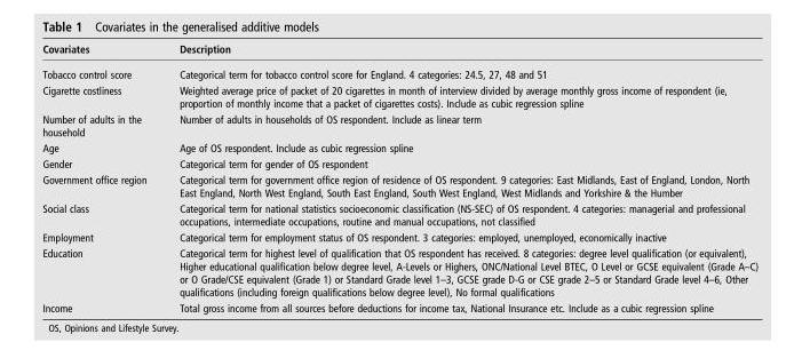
<table><thead><tr><td>Covariates</td><td>Description</td></tr></thead><tbody><tr><td>Tobacco control score</td><td>Categorical term for tobacco control score for England. 4 categories: 24.5, 27, 48 and 51</td></tr><tr><td>Cigarette costliness</td><td>Weighted average price of packet of 20 cigarettes in month of interview divided by average monthly gross income of respondent (ie, proportion of monthly income that a packet of cigarettes costs). Include as cubic regression spline</td></tr><tr><td>Number of adults in the household</td><td>Number of adults in households of OS respondent. Include as linear term</td></tr><tr><td>Age</td><td>Age of OS respondent. Include as cubic regression spline</td></tr><tr><td>Gender</td><td>Categorical term for gender of OS respondent</td></tr><tr><td>Government office region</td><td>Categorical term for government office region of residence of OS respondent. 9 categories: East Midlands, East of England, London, North East England, North West England, South East England, South West England, West Midlands and Yorkshire &amp; the Humber</td></tr><tr><td>Social class</td><td>Categorical term for national statistics socioeconomic classification (NS-SEC) of OS respondent. 4 categories: managerial and professional occupations, intermediate occupations, routine and manual occupations, not classified</td></tr><tr><td>Employment</td><td>Categorical term for employment status of OS respondent. 3 categories: employed, unemployed, economically inactive</td></tr><tr><td>Education</td><td>Categorical term for highest level of qualification that OS respondent has received. 8 categories: degree level qualification (or equivalent), Higher educational qualification below degree level, A-Levels or Highers, ONC/National Level BTEC, O Level or GCSE equivalent (Grade A–C) or O Grade/CSE equivalent (Grade 1) or Standard Grade level 1–3, GCSE grade D-G or CSE grade 2–5 or Standard Grade level 4–6, Other qualifications (including foreign qualifications below degree level), No formal qualifications</td></tr><tr><td>Income</td><td>Total gross income from all sources before deductions for income tax, National Insurance etc. Include as a cubic regression spline</td></tr></tbody></table>